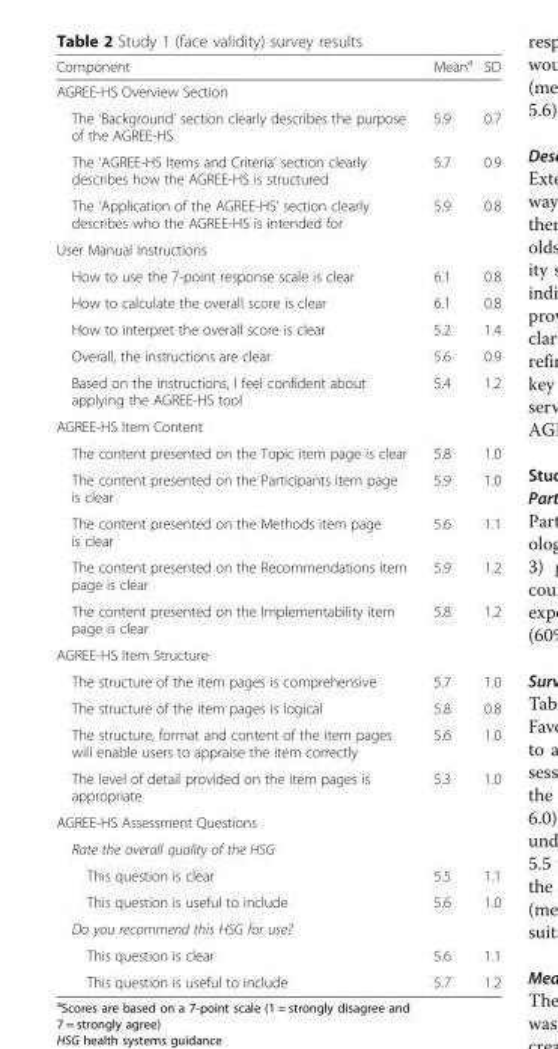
<table><thead><tr><td>Component</td><td>Mean<sup>a</sup></td><td>SD</td></tr></thead><tbody><tr><td colspan="3">AGREE-HS Overview Section</td></tr><tr><td>The ‘Background’ section clearly describes the purpose of the AGREE-HS</td><td>5.9</td><td>0.7</td></tr><tr><td>The ‘AGREE-HS Items and Criteria’ section clearly describes how the AGREE-HS is structured</td><td>5.7</td><td>0.9</td></tr><tr><td>The ‘Application of the AGREE-HS’ section clearly describes who the AGREE-HS is intended for</td><td>5.9</td><td>0.8</td></tr><tr><td colspan="3">User Manual Instructions</td></tr><tr><td>How to use the 7-point response scale is clear</td><td>6.1</td><td>0.8</td></tr><tr><td>How to calculate the overall score is clear</td><td>6.1</td><td>0.8</td></tr><tr><td>How to interpret the overall score is clear</td><td>5.2</td><td>1.4</td></tr><tr><td>Overall, the instructions are clear</td><td>5.6</td><td>0.9</td></tr><tr><td>Based on the instructions, I feel confident about applying the AGREE-HS tool</td><td>5.4</td><td>1.2</td></tr><tr><td colspan="3">AGREE-HS Item Content</td></tr><tr><td>The content presented on the Topic item page is clear</td><td>5.8</td><td>1.0</td></tr><tr><td>The content presented on the Participants item page is clear</td><td>5.9</td><td>1.0</td></tr><tr><td>The content presented on the Methods item page is clear</td><td>5.6</td><td>1.1</td></tr><tr><td>The content presented on the Recommendations item page is clear</td><td>5.9</td><td>1.2</td></tr><tr><td>The content presented on the Implementability item page is clear</td><td>5.8</td><td>1.2</td></tr><tr><td colspan="3">AGREE-HS Item Structure</td></tr><tr><td>The structure of the item pages is comprehensive</td><td>5.7</td><td>1.0</td></tr><tr><td>The structure of the item pages is logical</td><td>5.8</td><td>0.8</td></tr><tr><td>The structure, format and content of the item pages will enable users to appraise the item correctly</td><td>5.6</td><td>1.0</td></tr><tr><td>The level of detail provided on the item pages is appropriate</td><td>5.3</td><td>1.0</td></tr><tr><td colspan="3">AGREE-HS Assessment Questions</td></tr><tr><td colspan="3">Rate the overall quality of the HSG</td></tr><tr><td>This question is clear</td><td>5.5</td><td>1.1</td></tr><tr><td>This question is useful to include</td><td>5.6</td><td>1.0</td></tr><tr><td colspan="3">Do you recommend this HSG for use?</td></tr><tr><td>This question is clear</td><td>5.6</td><td>1.1</td></tr><tr><td>This question is useful to include</td><td>5.7</td><td>1.2</td></tr></tbody></table>